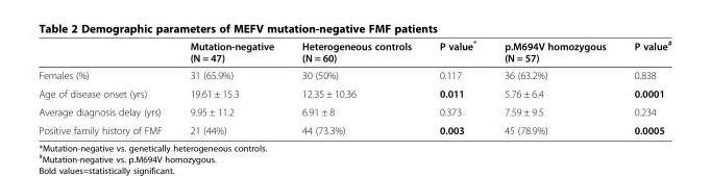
<table><thead><tr><td></td><td>Mutation-negative (N = 47)</td><td>Heterogeneous controls (N = 60)</td><td>P value*</td><td>p.M694V homozygous (N = 57)</td><td>P value<sup>#</sup></td></tr></thead><tbody><tr><td>Females (%)</td><td>31 (65.9%)</td><td>30 (50%)</td><td>0.117</td><td>36 (63.2%)</td><td>0.838</td></tr><tr><td>Age of disease onset (yrs)</td><td>19.61 ± 15.3</td><td>12.35 ± 10.36</td><td>0.011</td><td>5.76 ± 6.4</td><td>0.0001</td></tr><tr><td>Average diagnosis delay (yrs)</td><td>9.95 ± 11.2</td><td>6.91 ± 8</td><td>0.373</td><td>7.59 ± 9.5</td><td>0.234</td></tr><tr><td>Positive family history of FMF</td><td>21 (44%)</td><td>44 (73.3%)</td><td>0.003</td><td>45 (78.9%)</td><td>0.0005</td></tr></tbody></table>